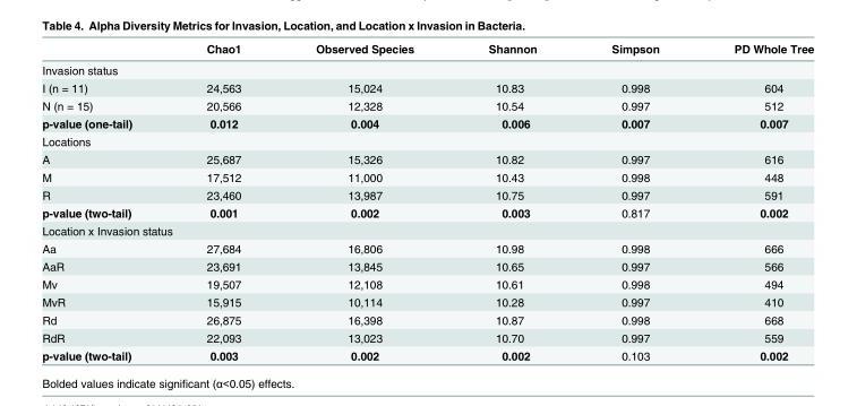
<table><thead><tr><td></td><td>Chao1</td><td>Observed Species</td><td>Shannon</td><td>Simpson</td><td>PD Whole Tree</td></tr></thead><tbody><tr><td colspan="6">Invasion status</td></tr><tr><td>I (n = 11)</td><td>24,563</td><td>15,024</td><td>10.83</td><td>0.998</td><td>604</td></tr><tr><td>N (n = 15)</td><td>20,566</td><td>12,328</td><td>10.54</td><td>0.997</td><td>512</td></tr><tr><td>p-value (one-tail)</td><td>0.012</td><td>0.004</td><td>0.006</td><td>0.007</td><td>0.007</td></tr><tr><td colspan="6">Locations</td></tr><tr><td>A</td><td>25,687</td><td>15,326</td><td>10.82</td><td>0.997</td><td>616</td></tr><tr><td>M</td><td>17,512</td><td>11,000</td><td>10.43</td><td>0.998</td><td>448</td></tr><tr><td>R</td><td>23,460</td><td>13,987</td><td>10.75</td><td>0.997</td><td>591</td></tr><tr><td>p-value (two-tail)</td><td>0.001</td><td>0.002</td><td>0.003</td><td>0.817</td><td>0.002</td></tr><tr><td colspan="6">Location x Invasion status</td></tr><tr><td>Aa</td><td>27,684</td><td>16,806</td><td>10.98</td><td>0.998</td><td>666</td></tr><tr><td>AaR</td><td>23,691</td><td>13,845</td><td>10.65</td><td>0.997</td><td>566</td></tr><tr><td>Mv</td><td>19,507</td><td>12,108</td><td>10.61</td><td>0.998</td><td>494</td></tr><tr><td>MvR</td><td>15,915</td><td>10,114</td><td>10.28</td><td>0.997</td><td>410</td></tr><tr><td>Rd</td><td>26,875</td><td>16,398</td><td>10.87</td><td>0.998</td><td>668</td></tr><tr><td>RdR</td><td>22,093</td><td>13,023</td><td>10.70</td><td>0.997</td><td>559</td></tr><tr><td>p-value (two-tail)</td><td>0.003</td><td>0.002</td><td>0.002</td><td>0.103</td><td>0.002</td></tr></tbody></table>